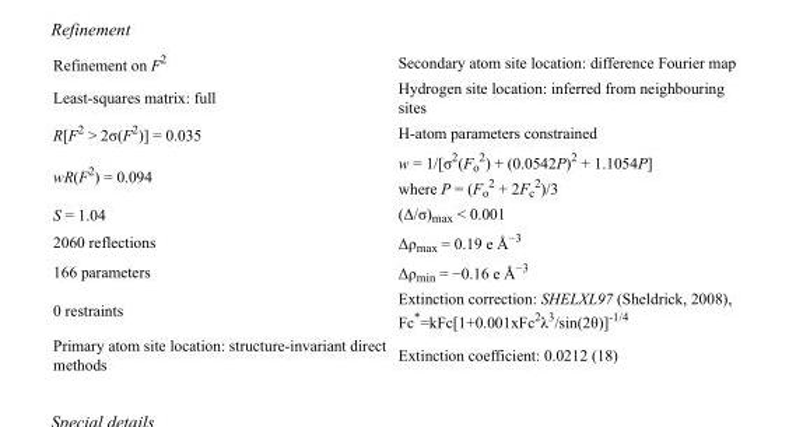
<table><tbody><tr><td>Refinement on F<sup>2</sup></td><td>Secondary atom site location: difference Fourier map</td></tr><tr><td>Least-squares matrix: full</td><td>Hydrogen site location: inferred from neighbouring sites</td></tr><tr><td>R[F<sup>2</sup> &gt; 2σ(F<sup>2</sup>)] = 0.035</td><td>H-atom parameters constrained</td></tr><tr><td>wR(F<sup>2</sup>) = 0.094</td><td>w = 1/[σ<sup>2</sup>(F<sub>o</sub> <sup>2</sup>) + (0.0542P)<sup>2</sup> + 1.1054P] where P = (F<sub>o</sub> <sup>2</sup> + 2F<sub>c</sub> <sup>2</sup>)/3</td></tr><tr><td>S = 1.04</td><td>(Δ/σ)<sub>max</sub> &lt; 0.001</td></tr><tr><td>2060 reflections</td><td>Δρ<sub>max</sub> = 0.19 e Å<sup>−3</sup></td></tr><tr><td>166 parameters</td><td>Δρ<sub>min</sub> = −0.16 e Å<sup>−3</sup></td></tr><tr><td>0 restraints</td><td>Extinction correction: SHELXL97 (Sheldrick, 2008), Fc*=kFc[1+0.001xFc<sup>2</sup>λ<sup>3</sup>/sin(2θ)]<sup>-1/4</sup></td></tr><tr><td>Primary atom site location: structure-invariant direct methods</td><td>Extinction coefficient: 0.0212 (18)</td></tr></tbody></table>